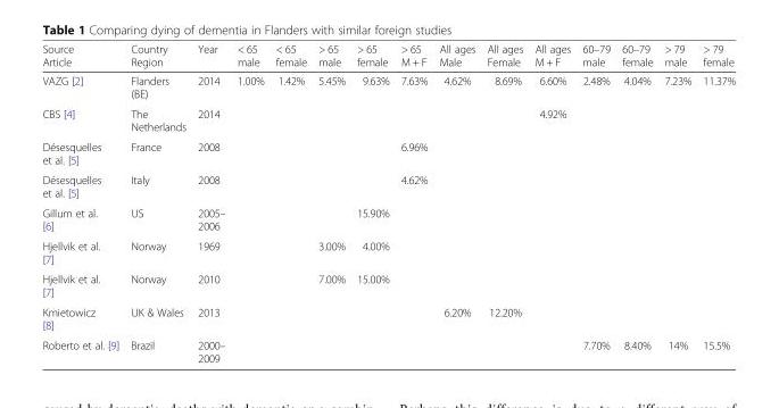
<table><thead><tr><td>Source Article</td><td>Country Region</td><td>Year</td><td>&lt; 65 male</td><td>&lt; 65 female</td><td>&gt; 65 male</td><td>&gt; 65 female</td><td>&gt; 65 M + F</td><td>All ages Male</td><td>All ages Female</td><td>All ages M + F</td><td>60–79 male</td><td>60–79 female</td><td>&gt; 79 male</td><td>&gt; 79 female</td></tr></thead><tbody><tr><td>VAZG [2]</td><td>Flanders (BE)</td><td>2014</td><td>1.00%</td><td>1.42%</td><td>5.45%</td><td>9.63%</td><td>7.63%</td><td>4.62%</td><td>8.69%</td><td>6.60%</td><td>2.48%</td><td>4.04%</td><td>7.23%</td><td>11.37%</td></tr><tr><td>CBS [4]</td><td>The Netherlands</td><td>2014</td><td></td><td></td><td></td><td></td><td></td><td></td><td></td><td>4.92%</td><td></td><td></td><td></td><td></td></tr><tr><td>Désesquelles et al. [5]</td><td>France</td><td>2008</td><td></td><td></td><td></td><td></td><td>6.96%</td><td></td><td></td><td></td><td></td><td></td><td></td><td></td></tr><tr><td>Désesquelles et al. [5]</td><td>Italy</td><td>2008</td><td></td><td></td><td></td><td></td><td>4.62%</td><td></td><td></td><td></td><td></td><td></td><td></td><td></td></tr><tr><td>Gillum et al. [6]</td><td>US</td><td>2005– 2006</td><td></td><td></td><td></td><td>15.90%</td><td></td><td></td><td></td><td></td><td></td><td></td><td></td><td></td></tr><tr><td>Hjellvik et al. [7]</td><td>Norway</td><td>1969</td><td></td><td></td><td>3.00%</td><td>4.00%</td><td></td><td></td><td></td><td></td><td></td><td></td><td></td><td></td></tr><tr><td>Hjellvik et al. [7]</td><td>Norway</td><td>2010</td><td></td><td></td><td>7.00%</td><td>15.00%</td><td></td><td></td><td></td><td></td><td></td><td></td><td></td><td></td></tr><tr><td>Kmietowicz [8]</td><td>UK &amp; Wales</td><td>2013</td><td></td><td></td><td></td><td></td><td></td><td>6.20%</td><td>12.20%</td><td></td><td></td><td></td><td></td><td></td></tr><tr><td>Roberto et al. [9]</td><td>Brazil</td><td>2000– 2009</td><td></td><td></td><td></td><td></td><td></td><td></td><td></td><td></td><td>7.70%</td><td>8.40%</td><td>14%</td><td>15.5%</td></tr></tbody></table>